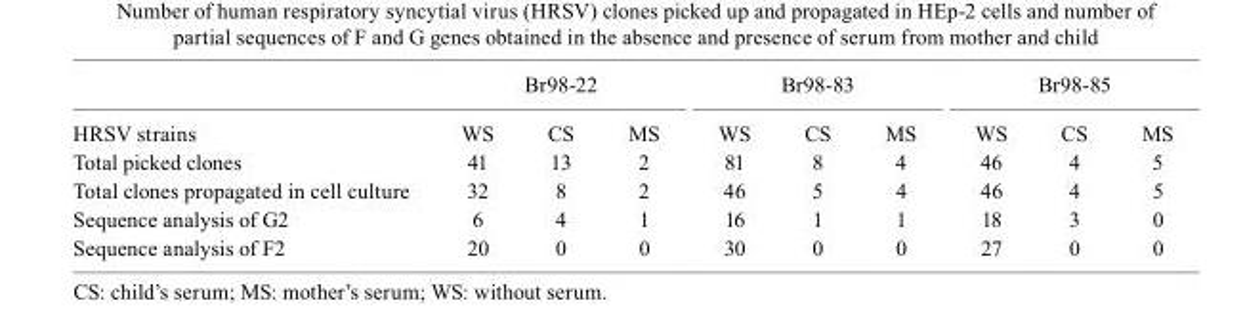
<table><thead><tr><td rowspan="2">HRSV strains</td><td colspan="3">Br98-22</td><td colspan="3">Br98-83</td><td colspan="3">Br98-85</td></tr><tr><td>WS</td><td>CS</td><td>MS</td><td>WS</td><td>CS</td><td>MS</td><td>WS</td><td>CS</td><td>MS</td></tr></thead><tbody><tr><td>Total picked clones</td><td>41</td><td>13</td><td>2</td><td>81</td><td>8</td><td>4</td><td>46</td><td>4</td><td>5</td></tr><tr><td>Total clones propagated in cell culture</td><td>32</td><td>8</td><td>2</td><td>46</td><td>5</td><td>4</td><td>46</td><td>4</td><td>5</td></tr><tr><td>Sequence analysis of G2</td><td>6</td><td>4</td><td>1</td><td>16</td><td>1</td><td>1</td><td>18</td><td>3</td><td>0</td></tr><tr><td>Sequence analysis of F2</td><td>20</td><td>0</td><td>0</td><td>30</td><td>0</td><td>0</td><td>27</td><td>0</td><td>0</td></tr></tbody></table>